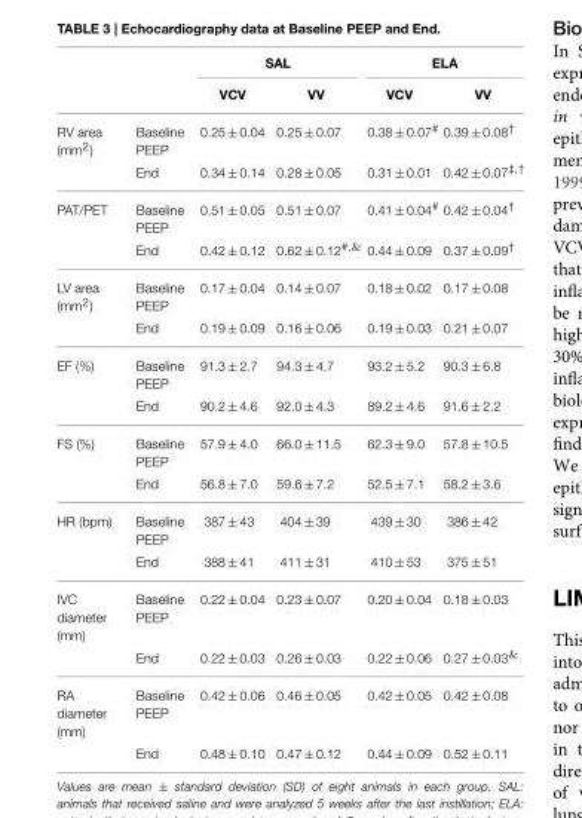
<table><thead><tr><td rowspan="2"></td><td rowspan="2"></td><td colspan="2">SAL</td><td colspan="2">ELA</td></tr><tr><td>VCV</td><td>VV</td><td>VCV</td><td>VV</td></tr></thead><tbody><tr><td rowspan="2">RV area (mm<sup>2</sup>)</td><td>Baseline PEEP</td><td>0.25 ± 0.04</td><td>0.25 ± 0.07</td><td>0.38 ± 0.07<sup>#</sup></td><td>0.39 ± 0.08<sup>†</sup></td></tr><tr><td>End</td><td>0.34 ± 0.14</td><td>0.28 ± 0.05</td><td>0.31 ± 0.01</td><td>0.42 ± 0.07<sup>‡</sup>,<sup>†</sup></td></tr><tr><td rowspan="2">PAT/PET</td><td>Baseline PEEP</td><td>0.51 ± 0.05</td><td>0.51 ± 0.07</td><td>0.41 ± 0.04<sup>#</sup></td><td>0.42 ± 0.04<sup>†</sup></td></tr><tr><td>End</td><td>0.42 ± 0.12</td><td>0.62 ± 0.12<sup>#</sup>,<sup>&amp;</sup></td><td>0.44 ± 0.09</td><td>0.37 ± 0.09<sup>†</sup></td></tr><tr><td rowspan="2">LV area (mm<sup>2</sup>)</td><td>Baseline PEEP</td><td>0.17 ± 0.04</td><td>0.14 ± 0.07</td><td>0.18 ± 0.02</td><td>0.17 ± 0.08</td></tr><tr><td>End</td><td>0.19 ± 0.09</td><td>0.16 ± 0.06</td><td>0.19 ± 0.03</td><td>0.21 ± 0.07</td></tr><tr><td rowspan="2">EF (%)</td><td>Baseline PEEP</td><td>91.3 ± 2.7</td><td>94.3 ± 4.7</td><td>93.2 ± 5.2</td><td>90.3 ± 6.8</td></tr><tr><td>End</td><td>90.2 ± 4.6</td><td>92.0 ± 4.3</td><td>89.2 ± 4.6</td><td>91.6 ± 2.2</td></tr><tr><td rowspan="2">FS (%)</td><td>Baseline PEEP</td><td>57.9 ± 4.0</td><td>66.0 ± 11.5</td><td>62.3 ± 9.0</td><td>57.8 ± 10.5</td></tr><tr><td>End</td><td>56.8 ± 7.0</td><td>59.6 ± 7.2</td><td>52.5 ± 7.1</td><td>58.2 ± 3.6</td></tr><tr><td rowspan="2">HR (bpm)</td><td>Baseline PEEP</td><td>387 ± 43</td><td>404 ± 39</td><td>439 ± 30</td><td>386 ± 42</td></tr><tr><td>End</td><td>388 ± 41</td><td>411 ± 31</td><td>410 ± 53</td><td>375 ± 51</td></tr><tr><td rowspan="2">IVC diameter (mm)</td><td>Baseline PEEP</td><td>0.22 ± 0.04</td><td>0.23 ± 0.07</td><td>0.20 ± 0.04</td><td>0.18 ± 0.03</td></tr><tr><td>End</td><td>0.22 ± 0.03</td><td>0.26 ± 0.03</td><td>0.22 ± 0.06</td><td>0.27 ± 0.03<sup>&amp;</sup></td></tr><tr><td rowspan="2">RA diameter (mm)</td><td>Baseline PEEP</td><td>0.42 ± 0.06</td><td>0.46 ± 0.05</td><td>0.42 ± 0.05</td><td>0.42 ± 0.08</td></tr><tr><td>End</td><td>0.48 ± 0.10</td><td>0.47 ± 0.12</td><td>0.44 ± 0.09</td><td>0.52 ± 0.11</td></tr></tbody></table>